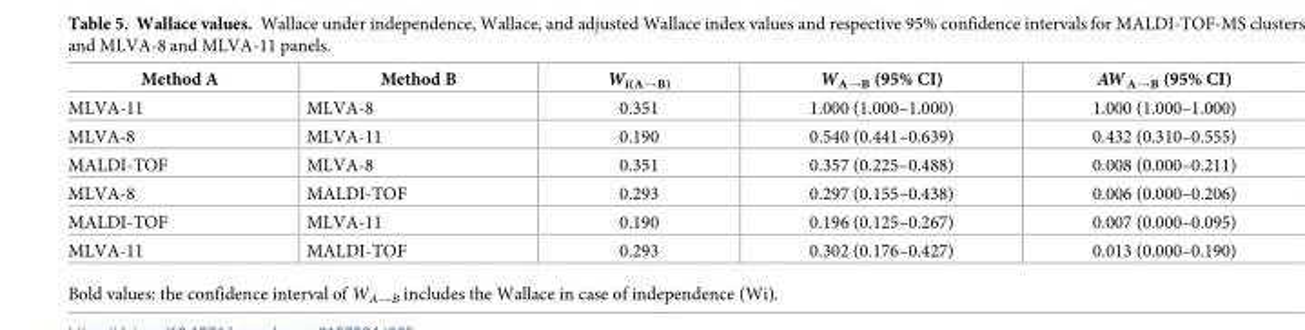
<table><thead><tr><td>Method A</td><td>Method B</td><td>W<sub>i(A→B)</sub></td><td>W<sub>A→B</sub> (95% CI)</td><td>AW <sub>A→B</sub> (95% CI)</td></tr></thead><tbody><tr><td>MLVA-11</td><td>MLVA-8</td><td>0.351</td><td>1.000 (1.000–1.000)</td><td>1.000 (1.000–1.000)</td></tr><tr><td>MLVA-8</td><td>MLVA-11</td><td>0.190</td><td>0.540 (0.441–0.639)</td><td>0.432 (0.310–0.555)</td></tr><tr><td>MALDI-TOF</td><td>MLVA-8</td><td>0.351</td><td>0.357 (0.225–0.488)</td><td>0.008 (0.000–0.211)</td></tr><tr><td>MLVA-8</td><td>MALDI-TOF</td><td>0.293</td><td>0.297 (0.155–0.438)</td><td>0.006 (0.000–0.206)</td></tr><tr><td>MALDI-TOF</td><td>MLVA-11</td><td>0.190</td><td>0.196 (0.125–0.267)</td><td>0.007 (0.000–0.095)</td></tr><tr><td>MLVA-11</td><td>MALDI-TOF</td><td>0.293</td><td>0.302 (0.176–0.427)</td><td>0.013 (0.000–0.190)</td></tr></tbody></table>